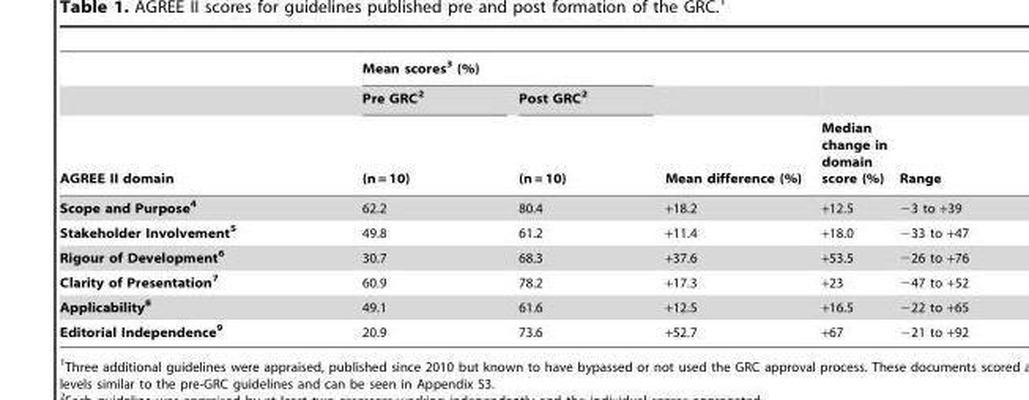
<table><thead><tr><td rowspan="3">AGREE II domain</td><td colspan="2">Mean scores<sup>3</sup> (%)</td><td rowspan="3">Mean difference (%)</td><td rowspan="3">Median change in domain score (%)</td><td rowspan="3">Range</td></tr><tr><td rowspan="2">Pre GRC<sup>2</sup> (n = 10)</td><td rowspan="2">Post GRC<sup>2</sup> (n = 10)</td></tr><tr></tr></thead><tbody><tr><td>Scope and Purpose4</td><td>62.2</td><td>80.4</td><td>+18.2</td><td>+12.5</td><td>−3 to +39</td></tr><tr><td>Stakeholder Involvement5</td><td>49.8</td><td>61.2</td><td>+11.4</td><td>+18.0</td><td>−33 to +47</td></tr><tr><td>Rigour of Development6</td><td>30.7</td><td>68.3</td><td>+37.6</td><td>+53.5</td><td>−26 to +76</td></tr><tr><td>Clarity of Presentation7</td><td>60.9</td><td>78.2</td><td>+17.3</td><td>+23</td><td>−47 to +52</td></tr><tr><td>Applicability8</td><td>49.1</td><td>61.6</td><td>+12.5</td><td>+16.5</td><td>−22 to +65</td></tr><tr><td>Editorial Independence9</td><td>20.9</td><td>73.6</td><td>+52.7</td><td>+67</td><td>−21 to +92</td></tr></tbody></table>